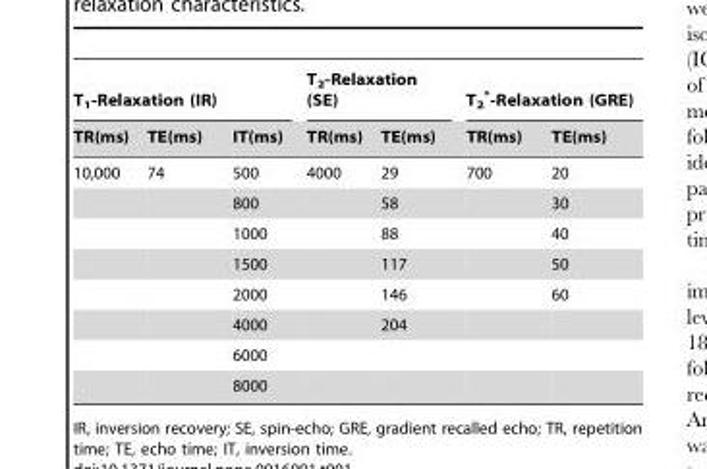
<table><thead><tr><td colspan="3">T<sub>1</sub>-Relaxation (IR)</td><td colspan="2">T<sub>2</sub>-Relaxation (SE)</td><td colspan="2">T<sub>2</sub> *-Relaxation (GRE)</td></tr><tr><td>TR(ms)</td><td>TE(ms)</td><td>IT(ms)</td><td>TR(ms)</td><td>TE(ms)</td><td>TR(ms)</td><td>TE(ms)</td></tr></thead><tbody><tr><td rowspan="8">10,000</td><td>74</td><td>500</td><td>4000</td><td>29</td><td>700</td><td>20</td></tr><tr><td></td><td>800</td><td></td><td>58</td><td></td><td>30</td></tr><tr><td></td><td>1000</td><td></td><td>88</td><td></td><td>40</td></tr><tr><td></td><td>1500</td><td></td><td>117</td><td></td><td>50</td></tr><tr><td></td><td>2000</td><td></td><td>146</td><td></td><td>60</td></tr><tr><td></td><td>4000</td><td></td><td>204</td><td></td><td></td></tr><tr><td></td><td>6000</td><td></td><td></td><td></td><td></td></tr><tr><td></td><td>8000</td><td></td><td></td><td></td><td></td></tr></tbody></table>